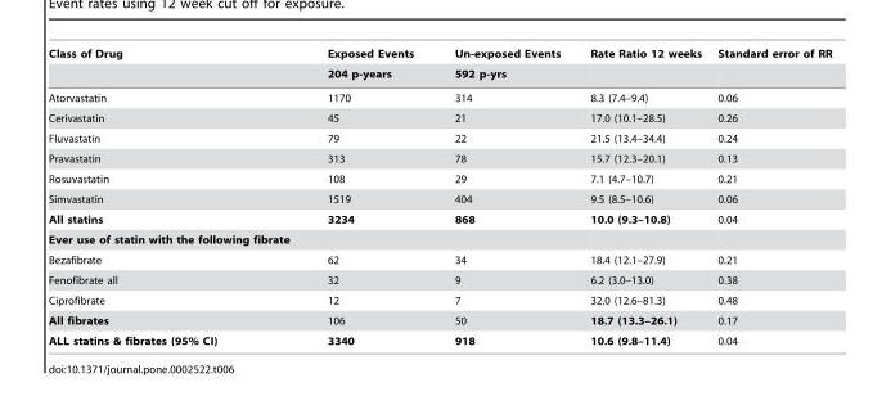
<table><thead><tr><td rowspan="2">Class of Drug</td><td rowspan="2">Exposed Events 204 p-years</td><td rowspan="2">Un-exposed Events 592 p-yrs</td><td rowspan="2">Rate Ratio 12 weeks</td><td rowspan="2">Standard error of RR</td></tr><tr></tr></thead><tbody><tr><td>Atorvastatin</td><td>1170</td><td>314</td><td>8.3 (7.4–9.4)</td><td>0.06</td></tr><tr><td>Cerivastatin</td><td>45</td><td>21</td><td>17.0 (10.1–28.5)</td><td>0.26</td></tr><tr><td>Fluvastatin</td><td>79</td><td>22</td><td>21.5 (13.4–34.4)</td><td>0.24</td></tr><tr><td>Pravastatin</td><td>313</td><td>78</td><td>15.7 (12.3–20.1)</td><td>0.13</td></tr><tr><td>Rosuvastatin</td><td>108</td><td>29</td><td>7.1 (4.7–10.7)</td><td>0.21</td></tr><tr><td>Simvastatin</td><td>1519</td><td>404</td><td>9.5 (8.5–10.6)</td><td>0.06</td></tr><tr><td>All statins</td><td>3234</td><td>868</td><td>10.0 (9.3–10.8)</td><td>0.04</td></tr><tr><td colspan="5">Ever use of statin with the following fibrate</td></tr><tr><td>Bezafibrate</td><td>62</td><td>34</td><td>18.4 (12.1–27.9)</td><td>0.21</td></tr><tr><td>Fenofibrate all</td><td>32</td><td>9</td><td>6.2 (3.0–13.0)</td><td>0.38</td></tr><tr><td>Ciprofibrate</td><td>12</td><td>7</td><td>32.0 (12.6–81.3)</td><td>0.48</td></tr><tr><td>All fibrates</td><td>106</td><td>50</td><td>18.7 (13.3–26.1)</td><td>0.17</td></tr><tr><td>ALL statins &amp; fibrates (95% CI)</td><td>3340</td><td>918</td><td>10.6 (9.8–11.4)</td><td>0.04</td></tr></tbody></table>